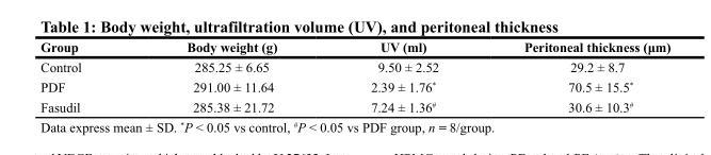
<table><thead><tr><td>Group</td><td>Body weight (g)</td><td>UV (ml)</td><td>Peritoneal thickness (μm)</td></tr></thead><tbody><tr><td>Control</td><td>285.25 ± 6.65</td><td>9.50 ± 2.52</td><td>29.2 ± 8.7</td></tr><tr><td>PDF</td><td>291.00 ± 11.64</td><td>2.39 ± 1.76*</td><td>70.5 ± 15.5*</td></tr><tr><td>Fasudil</td><td>285.38 ± 21.72</td><td>7.24 ± 1.36<sup>#</sup></td><td>30.6 ± 10.3<sup>#</sup></td></tr></tbody></table>